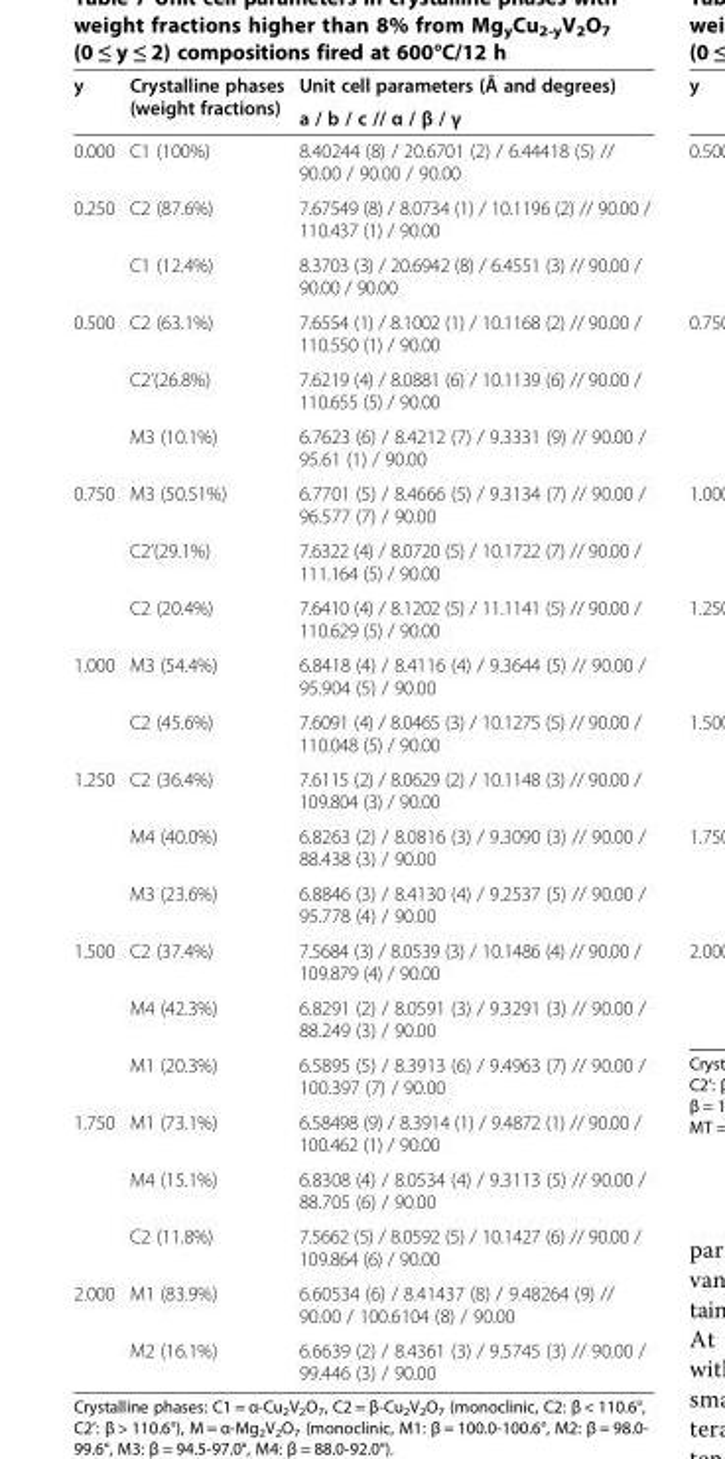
<table><thead><tr><td rowspan="2">y</td><td rowspan="2">Crystalline phases (weight fractions)</td><td rowspan="2">Unit cell parameters (Å and degrees) a / b / c // α / β / γ</td></tr><tr></tr></thead><tbody><tr><td>0.000</td><td>C1 (100%)</td><td>8.40244 (8) / 20.6701 (2) / 6.44418 (5) // 90.00 / 90.00 / 90.00</td></tr><tr><td rowspan="2">0.250</td><td>C2 (87.6%)</td><td>7.67549 (8) / 8.0734 (1) / 10.1196 (2) // 90.00 / 110.437 (1) / 90.00</td></tr><tr><td>C1 (12.4%)</td><td>8.3703 (3) / 20.6942 (8) / 6.4551 (3) // 90.00 / 90.00 / 90.00</td></tr><tr><td rowspan="3">0.500</td><td>C2 (63.1%)</td><td>7.6554 (1) / 8.1002 (1) / 10.1168 (2) // 90.00 / 110.550 (1) / 90.00</td></tr><tr><td>C2’(26.8%)</td><td>7.6219 (4) / 8.0881 (6) / 10.1139 (6) // 90.00 / 110.655 (5) / 90.00</td></tr><tr><td>M3 (10.1%)</td><td>6.7623 (6) / 8.4212 (7) / 9.3331 (9) // 90.00 / 95.61 (1) / 90.00</td></tr><tr><td rowspan="3">0.750</td><td>M3 (50.51%)</td><td>6.7701 (5) / 8.4666 (5) / 9.3134 (7) // 90.00 / 96.577 (7) / 90.00</td></tr><tr><td>C2’(29.1%)</td><td>7.6322 (4) / 8.0720 (5) / 10.1722 (7) // 90.00 / 111.164 (5) / 90.00</td></tr><tr><td>C2 (20.4%)</td><td>7.6410 (4) / 8.1202 (5) / 11.1141 (5) // 90.00 / 110.629 (5) / 90.00</td></tr><tr><td rowspan="2">1.000</td><td>M3 (54.4%)</td><td>6.8418 (4) / 8.4116 (4) / 9.3644 (5) // 90.00 / 95.904 (5) / 90.00</td></tr><tr><td>C2 (45.6%)</td><td>7.6091 (4) / 8.0465 (3) / 10.1275 (5) // 90.00 / 110.048 (5) / 90.00</td></tr><tr><td rowspan="3">1.250</td><td>C2 (36.4%)</td><td>7.6115 (2) / 8.0629 (2) / 10.1148 (3) // 90.00 / 109.804 (3) / 90.00</td></tr><tr><td>M4 (40.0%)</td><td>6.8263 (2) / 8.0816 (3) / 9.3090 (3) // 90.00 / 88.438 (3) / 90.00</td></tr><tr><td>M3 (23.6%)</td><td>6.8846 (3) / 8.4130 (4) / 9.2537 (5) // 90.00 / 95.778 (4) / 90.00</td></tr><tr><td rowspan="3">1.500</td><td>C2 (37.4%)</td><td>7.5684 (3) / 8.0539 (3) / 10.1486 (4) // 90.00 / 109.879 (4) / 90.00</td></tr><tr><td>M4 (42.3%)</td><td>6.8291 (2) / 8.0591 (3) / 9.3291 (3) // 90.00 / 88.249 (3) / 90.00</td></tr><tr><td>M1 (20.3%)</td><td>6.5895 (5) / 8.3913 (6) / 9.4963 (7) // 90.00 / 100.397 (7) / 90.00</td></tr><tr><td rowspan="3">1.750</td><td>M1 (73.1%)</td><td>6.58498 (9) / 8.3914 (1) / 9.4872 (1) // 90.00 / 100.462 (1) / 90.00</td></tr><tr><td>M4 (15.1%)</td><td>6.8308 (4) / 8.0534 (4) / 9.3113 (5) // 90.00 / 88.705 (6) / 90.00</td></tr><tr><td>C2 (11.8%)</td><td>7.5662 (5) / 8.0592 (5) / 10.1427 (6) // 90.00 / 109.864 (6) / 90.00</td></tr><tr><td rowspan="2">2.000</td><td>M1 (83.9%)</td><td>6.60534 (6) / 8.41437 (8) / 9.48264 (9) // 90.00 / 100.6104 (8) / 90.00</td></tr><tr><td>M2 (16.1%)</td><td>6.6639 (2) / 8.4361 (3) / 9.5745 (3) // 90.00 / 99.446 (3) / 90.00</td></tr></tbody></table>